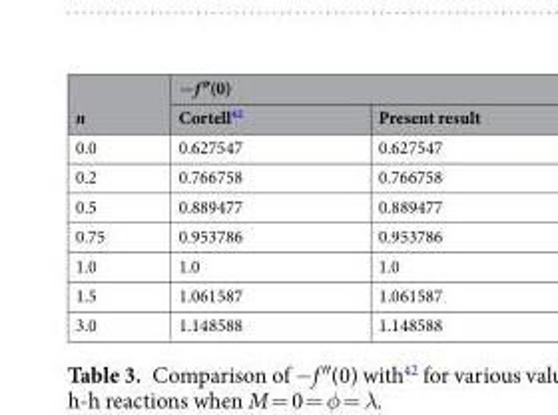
<table><thead><tr><td rowspan="2">n</td><td colspan="2">−f ″(0)</td></tr><tr><td>Cortell<sup>42</sup></td><td>Present result</td></tr></thead><tbody><tr><td>0.0</td><td>0.627547</td><td>0.627547</td></tr><tr><td>0.2</td><td>0.766758</td><td>0.766758</td></tr><tr><td>0.5</td><td>0.889477</td><td>0.889477</td></tr><tr><td>0.75</td><td>0.953786</td><td>0.953786</td></tr><tr><td>1.0</td><td>1.0</td><td>1.0</td></tr><tr><td>1.5</td><td>1.061587</td><td>1.061587</td></tr><tr><td>3.0</td><td>1.148588</td><td>1.148588</td></tr></tbody></table>